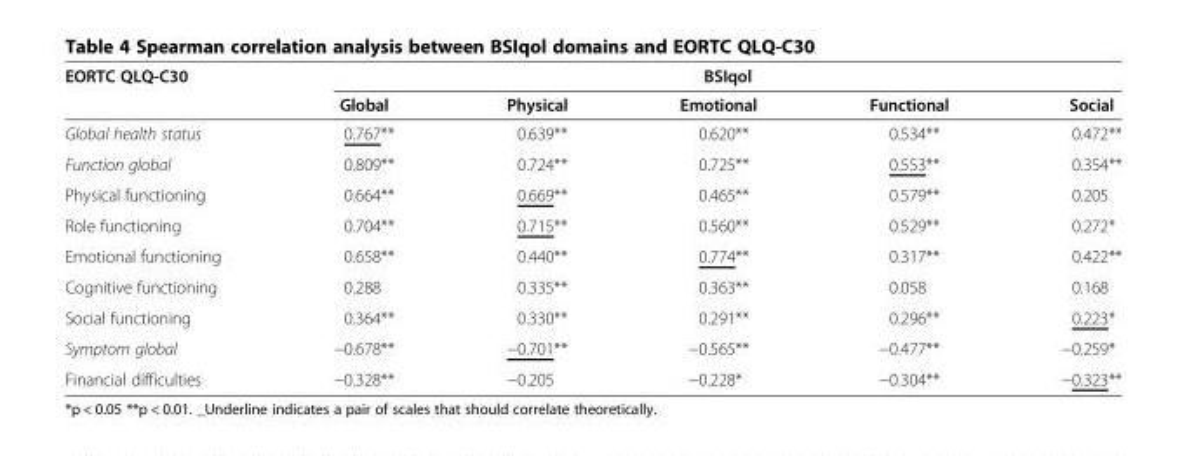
<table><thead><tr><td rowspan="2">EORTC QLQ-C30</td><td colspan="5">BSIqol</td></tr><tr><td>Global</td><td>Physical</td><td>Emotional</td><td>Functional</td><td>Social</td></tr></thead><tbody><tr><td>Global health status</td><td>0.767**</td><td>0.639**</td><td>0.620**</td><td>0.534**</td><td>0.472**</td></tr><tr><td>Function global</td><td>0.809**</td><td>0.724**</td><td>0.725**</td><td>0.553**</td><td>0.354**</td></tr><tr><td>Physical functioning</td><td>0.664**</td><td>0.669**</td><td>0.465**</td><td>0.579**</td><td>0.205</td></tr><tr><td>Role functioning</td><td>0.704**</td><td>0.715**</td><td>0.560**</td><td>0.529**</td><td>0.272*</td></tr><tr><td>Emotional functioning</td><td>0.658**</td><td>0.440**</td><td>0.774**</td><td>0.317**</td><td>0.422**</td></tr><tr><td>Cognitive functioning</td><td>0.288</td><td>0.335**</td><td>0.363**</td><td>0.058</td><td>0.168</td></tr><tr><td>Social functioning</td><td>0.364**</td><td>0.330**</td><td>0.291**</td><td>0.296**</td><td>0.223*</td></tr><tr><td>Symptom global</td><td>−0.678**</td><td>−0.701**</td><td>−0.565**</td><td>−0.477**</td><td>−0.259*</td></tr><tr><td>Financial difficulties</td><td>−0.328**</td><td>−0.205</td><td>−0.228*</td><td>−0.304**</td><td>−0.323**</td></tr></tbody></table>